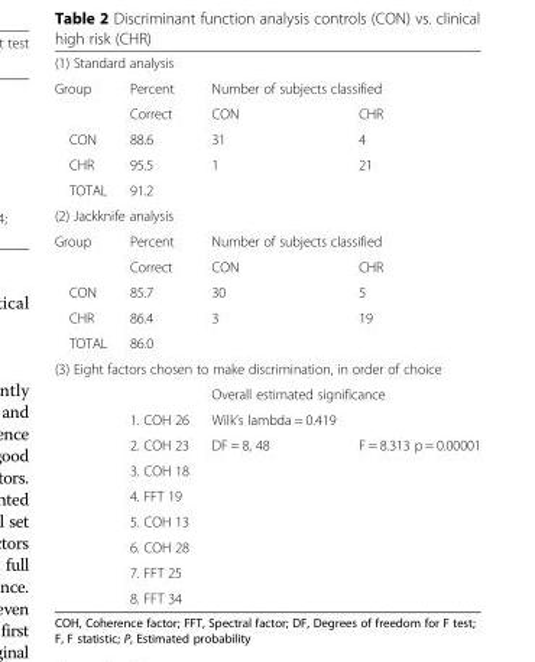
<table><tbody><tr><td colspan="4">(1) Standard analysis</td></tr><tr><td rowspan="2">Group</td><td>Percent</td><td colspan="2">Number of subjects classified</td></tr><tr><td>Correct</td><td>CON</td><td>CHR</td></tr><tr><td>CON</td><td>88.6</td><td>31</td><td>4</td></tr><tr><td>CHR</td><td>95.5</td><td>1</td><td>21</td></tr><tr><td>TOTAL</td><td>91.2</td><td></td><td></td></tr><tr><td colspan="4">(2) Jackknife analysis</td></tr><tr><td rowspan="2">Group</td><td>Percent</td><td colspan="2">Number of subjects classified</td></tr><tr><td>Correct</td><td>CON</td><td>CHR</td></tr><tr><td>CON</td><td>85.7</td><td>30</td><td>5</td></tr><tr><td>CHR</td><td>86.4</td><td>3</td><td>19</td></tr><tr><td>TOTAL</td><td>86.0</td><td></td><td></td></tr><tr><td colspan="4">(3) Eight factors chosen to make discrimination, in order of choice</td></tr><tr><td></td><td></td><td colspan="2">Overall estimated significance</td></tr><tr><td></td><td>1. COH 26</td><td>Wilk’s lambda = 0.419</td><td></td></tr><tr><td></td><td>2. COH 23</td><td>DF = 8, 48</td><td>F = 8.313 p = 0.00001</td></tr><tr><td></td><td>3. COH 18</td><td></td><td></td></tr><tr><td></td><td>4. FFT 19</td><td></td><td></td></tr><tr><td></td><td>5. COH 13</td><td></td><td></td></tr><tr><td></td><td>6. COH 28</td><td></td><td></td></tr><tr><td></td><td>7. FFT 25</td><td></td><td></td></tr><tr><td></td><td>8. FFT 34</td><td></td><td></td></tr></tbody></table>